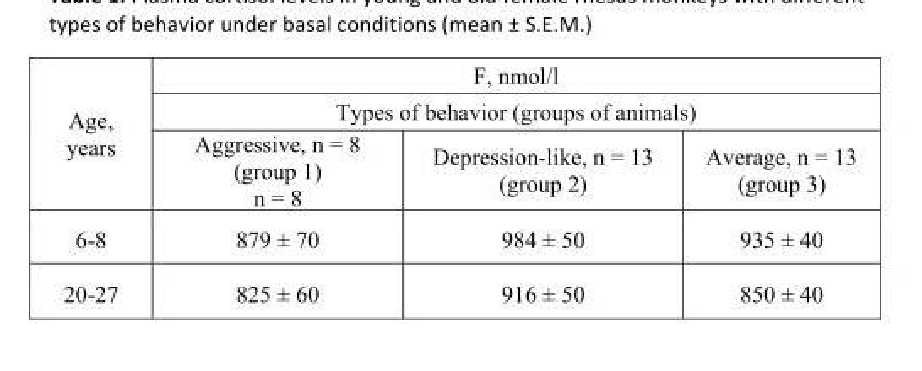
<table><thead><tr><td rowspan="3">Age, years</td><td rowspan="2" colspan="3">F, nmol/l Types of behavior (groups of animals)</td></tr><tr></tr><tr><td>Aggressive, n = 8 (group 1) n = 8</td><td>Depression-like, n = 13 (group 2)</td><td>Average, n = 13 (group 3)</td></tr></thead><tbody><tr><td>6-8</td><td>879 ± 70</td><td>984 ± 50</td><td>935 ± 40</td></tr><tr><td>20-27</td><td>825 ± 60</td><td>916 ± 50</td><td>850 ± 40</td></tr></tbody></table>